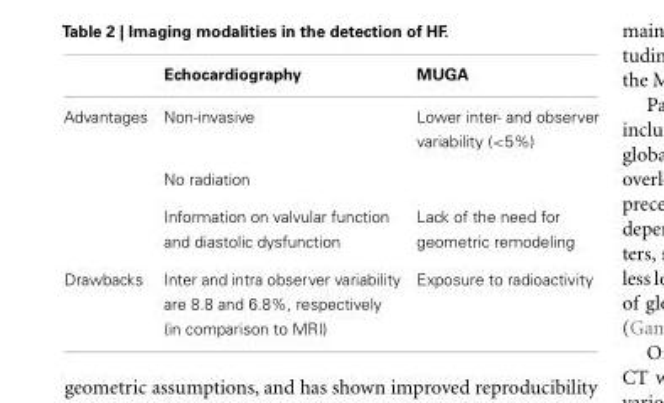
<table><thead><tr><td></td><td>Echocardiography</td><td>MUGA</td></tr></thead><tbody><tr><td rowspan="3">Advantages</td><td>Non-invasive</td><td>Lower inter- and observer variability (&lt;5%)</td></tr><tr><td>No radiation</td><td></td></tr><tr><td>Information on valvular function and diastolic dysfunction</td><td>Lack of the need for geometric remodeling</td></tr><tr><td>Drawbacks</td><td>Inter and intra observer variability are 8.8 and 6.8%, respectively (in comparison to MRI)</td><td>Exposure to radioactivity</td></tr></tbody></table>